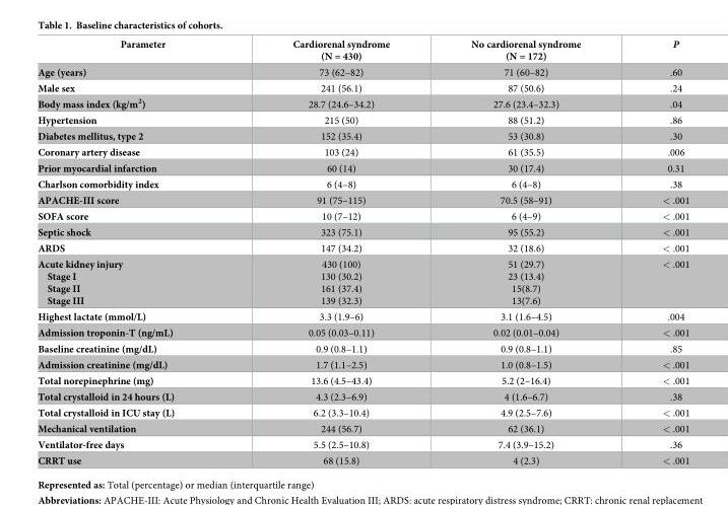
<table><thead><tr><td>Parameter</td><td>Cardiorenal syndrome (N = 430)</td><td>No cardiorenal syndrome (N = 172)</td><td>P</td></tr></thead><tbody><tr><td>Age (years)</td><td>73 (62–82)</td><td>71 (60–82)</td><td>.60</td></tr><tr><td>Male sex</td><td>241 (56.1)</td><td>87 (50.6)</td><td>.24</td></tr><tr><td>Body mass index (kg/m<sup>2</sup>)</td><td>28.7 (24.6–34.2)</td><td>27.6 (23.4–32.3)</td><td>.04</td></tr><tr><td>Hypertension</td><td>215 (50)</td><td>88 (51.2)</td><td>.86</td></tr><tr><td>Diabetes mellitus, type 2</td><td>152 (35.4)</td><td>53 (30.8)</td><td>.30</td></tr><tr><td>Coronary artery disease</td><td>103 (24)</td><td>61 (35.5)</td><td>.006</td></tr><tr><td>Prior myocardial infarction</td><td>60 (14)</td><td>30 (17.4)</td><td>0.31</td></tr><tr><td>Charlson comorbidity index</td><td>6 (4–8)</td><td>6 (4–8)</td><td>.38</td></tr><tr><td>APACHE-III score</td><td>91 (75–115)</td><td>70.5 (58–91)</td><td>&lt; .001</td></tr><tr><td>SOFA score</td><td>10 (7–12)</td><td>6 (4–9)</td><td>&lt; .001</td></tr><tr><td>Septic shock</td><td>323 (75.1)</td><td>95 (55.2)</td><td>&lt; .001</td></tr><tr><td>ARDS</td><td>147 (34.2)</td><td>32 (18.6)</td><td>&lt; .001</td></tr><tr><td>Acute kidney injury Stage I Stage II Stage III</td><td>430 (100) 130 (30.2) 161 (37.4) 139 (32.3)</td><td>51 (29.7) 23 (13.4) 15(8.7) 13(7.6)</td><td>&lt; .001</td></tr><tr><td>Highest lactate (mmol/L)</td><td>3.3 (1.9–6)</td><td>3.1 (1.6–4.5)</td><td>.004</td></tr><tr><td>Admission troponin-T (ng/mL)</td><td>0.05 (0.03–0.11)</td><td>0.02 (0.01–0.04)</td><td>&lt; .001</td></tr><tr><td>Baseline creatinine (mg/dL)</td><td>0.9 (0.8–1.1)</td><td>0.9 (0.8–1.1)</td><td>.85</td></tr><tr><td>Admission creatinine (mg/dL)</td><td>1.7 (1.1–2.5)</td><td>1.0 (0.8–1.5)</td><td>&lt; .001</td></tr><tr><td>Total norepinephrine (mg)</td><td>13.6 (4.5–43.4)</td><td>5.2 (2–16.4)</td><td>&lt; .001</td></tr><tr><td>Total crystalloid in 24 hours (L)</td><td>4.3 (2.3–6.9)</td><td>4 (1.6–6.7)</td><td>.38</td></tr><tr><td>Total crystalloid in ICU stay (L)</td><td>6.2 (3.3–10.4)</td><td>4.9 (2.5–7.6)</td><td>&lt; .001</td></tr><tr><td>Mechanical ventilation</td><td>244 (56.7)</td><td>62 (36.1)</td><td>&lt; .001</td></tr><tr><td>Ventilator-free days</td><td>5.5 (2.5–10.8)</td><td>7.4 (3.9–15.2)</td><td>.36</td></tr><tr><td>CRRT use</td><td>68 (15.8)</td><td>4 (2.3)</td><td>&lt; .001</td></tr></tbody></table>